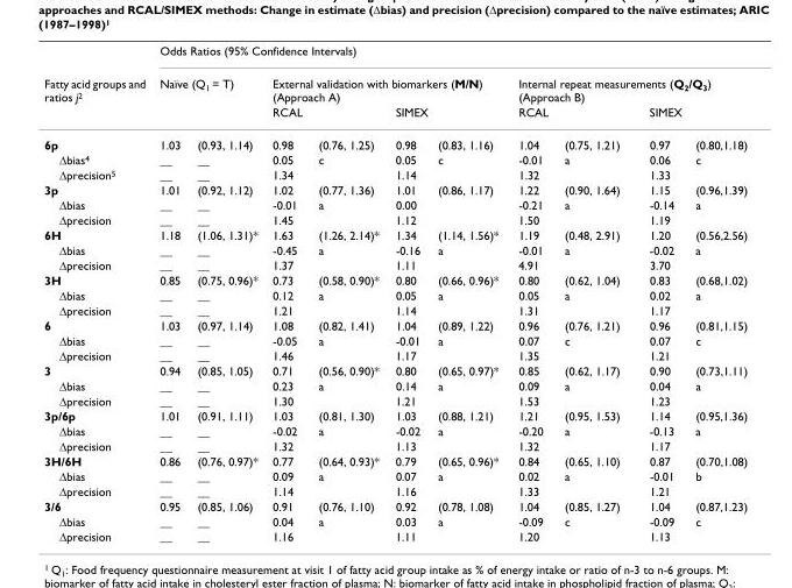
<table><thead><tr><td rowspan="4">Fatty acid groups and ratios j<sup>2</sup> 6p</td><td colspan="10">Odds Ratios (95% Confidence Intervals)</td></tr><tr><td colspan="2">Naïve (Q<sub>1</sub> = T)</td><td colspan="4">External validation with biomarkers (M/N) (Approach A)</td><td colspan="4">Internal repeat measurements (Q<sub>2</sub>/Q<sub>3</sub>) (Approach B)</td></tr><tr><td rowspan="2">1.03</td><td rowspan="2">(0.93, 1.14)</td><td colspan="2">RCAL</td><td colspan="2">SIMEX</td><td colspan="2">RCAL</td><td colspan="2">SIMEX</td></tr><tr><td>0.98</td><td>(0.76, 1.25)</td><td>0.98</td><td>(0.83, 1.16)</td><td>1.04</td><td>(0.75, 1.21)</td><td>0.97</td><td>(0.80,1.18)</td></tr></thead><tbody><tr><td>∆bias4</td><td>__</td><td>__</td><td>0.05</td><td>c</td><td>0.05</td><td>c</td><td>-0.01</td><td>a</td><td>0.06</td><td>c</td></tr><tr><td>∆precision5</td><td>__</td><td>__</td><td>1.34</td><td></td><td>1.14</td><td></td><td>1.32</td><td></td><td>1.33</td><td></td></tr><tr><td>3p</td><td>1.01</td><td>(0.92, 1.12)</td><td>1.02</td><td>(0.77, 1.36)</td><td>1.01</td><td>(0.86, 1.17)</td><td>1.22</td><td>(0.90, 1.64)</td><td>1.15</td><td>(0.96,1.39)</td></tr><tr><td>∆bias</td><td>__</td><td>__</td><td>-0.01</td><td>a</td><td>0.00</td><td></td><td>-0.21</td><td>a</td><td>-0.14</td><td>a</td></tr><tr><td>∆precision</td><td>__</td><td>__</td><td>1.45</td><td></td><td>1.12</td><td></td><td>1.50</td><td></td><td>1.19</td><td></td></tr><tr><td>6H</td><td>1.18</td><td>(1.06, 1.31)*</td><td>1.63</td><td>(1.26, 2.14)*</td><td>1.34</td><td>(1.14, 1.56)*</td><td>1.19</td><td>(0.48, 2.91)</td><td>1.20</td><td>(0.56,2.56)</td></tr><tr><td>∆bias</td><td>__</td><td>__</td><td>-0.45</td><td>a</td><td>-0.16</td><td>a</td><td>-0.01</td><td>a</td><td>-0.02</td><td>a</td></tr><tr><td>∆precision</td><td>__</td><td>__</td><td>1.37</td><td></td><td>1.11</td><td></td><td>4.91</td><td></td><td>3.70</td><td></td></tr><tr><td>3H</td><td>0.85</td><td>(0.75, 0.96)*</td><td>0.73</td><td>(0.58, 0.90)*</td><td>0.80</td><td>(0.66, 0.96)*</td><td>0.80</td><td>(0.62, 1.04)</td><td>0.83</td><td>(0.68,1.02)</td></tr><tr><td>∆bias</td><td>__</td><td>__</td><td>0.12</td><td>a</td><td>0.05</td><td>a</td><td>0.05</td><td>a</td><td>0.02</td><td>a</td></tr><tr><td>∆precision</td><td>__</td><td>__</td><td>1.21</td><td></td><td>1.14</td><td></td><td>1.31</td><td></td><td>1.17</td><td></td></tr><tr><td>6</td><td>1.03</td><td>(0.97, 1.14)</td><td>1.08</td><td>(0.82, 1.41)</td><td>1.04</td><td>(0.89, 1.22)</td><td>0.96</td><td>(0.76, 1.21)</td><td>0.96</td><td>(0.81,1.15)</td></tr><tr><td>∆bias</td><td>__</td><td>__</td><td>-0.05</td><td>a</td><td>-0.01</td><td>a</td><td>0.07</td><td>c</td><td>0.07</td><td>c</td></tr><tr><td>∆precision</td><td>__</td><td>__</td><td>1.46</td><td></td><td>1.17</td><td></td><td>1.35</td><td></td><td>1.21</td><td></td></tr><tr><td>3</td><td>0.94</td><td>(0.85, 1.05)</td><td>0.71</td><td>(0.56, 0.90)*</td><td>0.80</td><td>(0.65, 0.97)*</td><td>0.85</td><td>(0.62, 1.17)</td><td>0.90</td><td>(0.73,1.11)</td></tr><tr><td>∆bias</td><td>__</td><td>__</td><td>0.23</td><td>a</td><td>0.14</td><td>a</td><td>0.09</td><td>a</td><td>0.04</td><td>a</td></tr><tr><td>∆precision</td><td>__</td><td>__</td><td>1.30</td><td></td><td>1.21</td><td></td><td>1.53</td><td></td><td>1.23</td><td></td></tr><tr><td>3p/6p</td><td>1.01</td><td>(0.91, 1.11)</td><td>1.03</td><td>(0.81, 1.30)</td><td>1.03</td><td>(0.88, 1.21)</td><td>1.21</td><td>(0.95, 1.53)</td><td>1.14</td><td>(0.95,1.36)</td></tr><tr><td>∆bias</td><td>__</td><td>__</td><td>-0.02</td><td>a</td><td>-0.02</td><td>a</td><td>-0.20</td><td>a</td><td>-0.13</td><td>a</td></tr><tr><td>∆precision</td><td>__</td><td>__</td><td>1.32</td><td></td><td>1.13</td><td></td><td>1.32</td><td></td><td>1.17</td><td></td></tr><tr><td>3H/6H</td><td>0.86</td><td>(0.76, 0.97)*</td><td>0.77</td><td>(0.64, 0.93)*</td><td>0.79</td><td>(0.65, 0.96)*</td><td>0.84</td><td>(0.65, 1.10)</td><td>0.87</td><td>(0.70,1.08)</td></tr><tr><td>∆bias</td><td>__</td><td>__</td><td>0.09</td><td>a</td><td>0.07</td><td>a</td><td>0.02</td><td>a</td><td>-0.01</td><td>b</td></tr><tr><td>∆precision</td><td>__</td><td>__</td><td>1.14</td><td></td><td>1.16</td><td></td><td>1.33</td><td></td><td>1.21</td><td></td></tr><tr><td>3/6</td><td>0.95</td><td>(0.85, 1.06)</td><td>0.91</td><td>(0.76, 1.10)</td><td>0.92</td><td>(0.78, 1.08)</td><td>1.04</td><td>(0.85, 1.27)</td><td>1.04</td><td>(0.87,1.23)</td></tr><tr><td>∆bias</td><td>__</td><td>__</td><td>0.04</td><td>a</td><td>0.03</td><td>a</td><td>-0.09</td><td>c</td><td>-0.09</td><td>c</td></tr><tr><td>∆precision</td><td>__</td><td>__</td><td>1.16</td><td></td><td>1.11</td><td></td><td>1.20</td><td></td><td>1.13</td><td></td></tr></tbody></table>